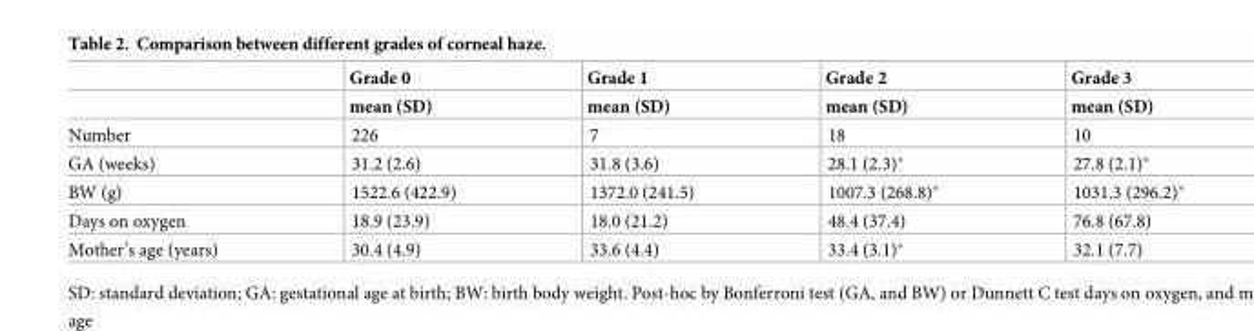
<table><thead><tr><td rowspan="2"></td><td rowspan="2">Grade 0 mean (SD)</td><td rowspan="2">Grade 1 mean (SD)</td><td rowspan="2">Grade 2 mean (SD)</td><td rowspan="2">Grade 3 mean (SD)</td></tr><tr></tr></thead><tbody><tr><td>Number</td><td>226</td><td>7</td><td>18</td><td>10</td></tr><tr><td>GA (weeks)</td><td>31.2 (2.6)</td><td>31.8 (3.6)</td><td>28.1 (2.3)*</td><td>27.8 (2.1)*</td></tr><tr><td>BW (g)</td><td>1522.6 (422.9)</td><td>1372.0 (241.5)</td><td>1007.3 (268.8)*</td><td>1031.3 (296.2)*</td></tr><tr><td>Days on oxygen</td><td>18.9 (23.9)</td><td>18.0 (21.2)</td><td>48.4 (37.4)</td><td>76.8 (67.8)</td></tr><tr><td>Mother’s age (years)</td><td>30.4 (4.9)</td><td>33.6 (4.4)</td><td>33.4 (3.1)*</td><td>32.1 (7.7)</td></tr></tbody></table>